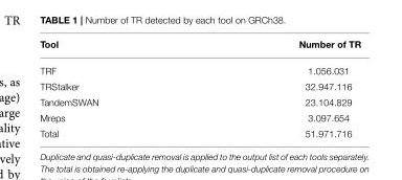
<table><thead><tr><td>Tool</td><td>Number of TR</td></tr></thead><tbody><tr><td>TRF</td><td>1.056.031</td></tr><tr><td>TRStalker</td><td>32.947.116</td></tr><tr><td>TandemSWAN</td><td>23.104.829</td></tr><tr><td>Mreps</td><td>3.097.654</td></tr><tr><td>Total</td><td>51.971.716</td></tr></tbody></table>